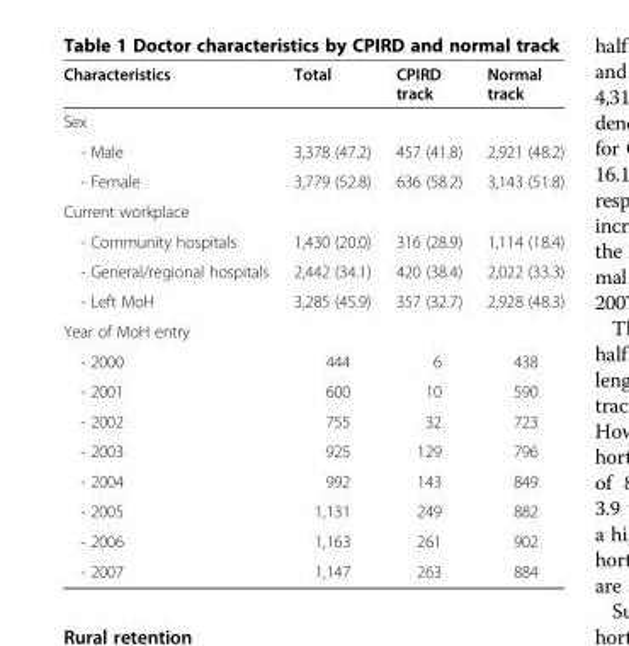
<table><thead><tr><td>Characteristics</td><td>Total</td><td>CPIRD track</td><td>Normal track</td></tr></thead><tbody><tr><td colspan="4">Sex</td></tr><tr><td>- Male</td><td>3,378 (47.2)</td><td>457 (41.8)</td><td>2,921 (48.2)</td></tr><tr><td>- Female</td><td>3,779 (52.8)</td><td>636 (58.2)</td><td>3,143 (51.8)</td></tr><tr><td colspan="4">Current workplace</td></tr><tr><td>- Community hospitals</td><td>1,430 (20.0)</td><td>316 (28.9)</td><td>1,114 (18.4)</td></tr><tr><td>- General/regional hospitals</td><td>2,442 (34.1)</td><td>420 (38.4)</td><td>2,022 (33.3)</td></tr><tr><td>- Left MoH</td><td>3,285 (45.9)</td><td>357 (32.7)</td><td>2,928 (48.3)</td></tr><tr><td colspan="4">Year of MoH entry</td></tr><tr><td>- 2000</td><td>444</td><td>6</td><td>438</td></tr><tr><td>- 2001</td><td>600</td><td>10</td><td>590</td></tr><tr><td>- 2002</td><td>755</td><td>32</td><td>723</td></tr><tr><td>- 2003</td><td>925</td><td>129</td><td>796</td></tr><tr><td>- 2004</td><td>992</td><td>143</td><td>849</td></tr><tr><td>- 2005</td><td>1,131</td><td>249</td><td>882</td></tr><tr><td>- 2006</td><td>1,163</td><td>261</td><td>902</td></tr><tr><td>- 2007</td><td>1,147</td><td>263</td><td>884</td></tr></tbody></table>